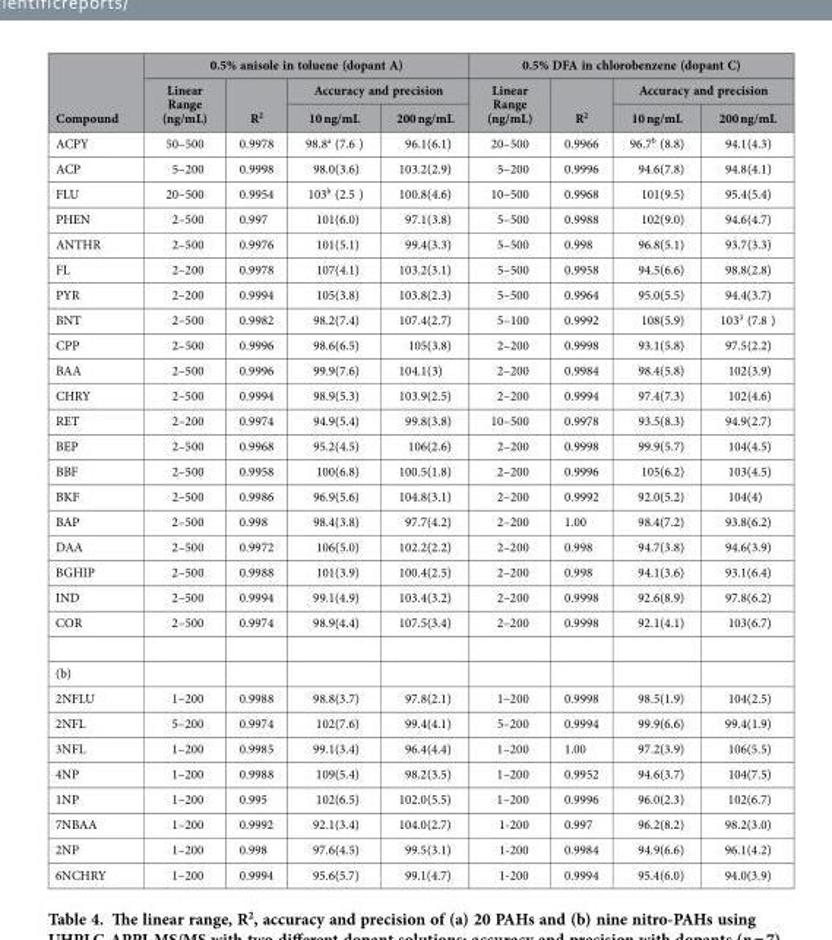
<table><thead><tr><td rowspan="3">Compound</td><td colspan="4">0.5% anisole in toluene (dopant A)</td><td colspan="4">0.5% DFA in chlorobenzene (dopant C)</td></tr><tr><td rowspan="2">Linear Range (ng/mL)</td><td rowspan="2">R<sup>2</sup></td><td colspan="2">Accuracy and precision</td><td rowspan="2">Linear Range (ng/mL)</td><td rowspan="2">R<sup>2</sup></td><td colspan="2">Accuracy and precision</td></tr><tr><td>10 ng/mL</td><td>200 ng/mL</td><td>10 ng/mL</td><td>200 ng/mL</td></tr></thead><tbody><tr><td>ACPY</td><td>50–500</td><td>0.9978</td><td>98.8<sup>a</sup> (7.6 )</td><td>96.1(6.1)</td><td>20–500</td><td>0.9966</td><td>96.7<sup>b</sup> (8.8)</td><td>94.1(4.3)</td></tr><tr><td>ACP</td><td>5–200</td><td>0.9998</td><td>98.0(3.6)</td><td>103.2(2.9)</td><td>5–200</td><td>0.9996</td><td>94.6(7.8)</td><td>94.8(4.1)</td></tr><tr><td>FLU</td><td>20–500</td><td>0.9954</td><td>103<sup>b</sup> (2.5 )</td><td>100.8(4.6)</td><td>10–500</td><td>0.9968</td><td>101(9.5)</td><td>95.4(5.4)</td></tr><tr><td>PHEN</td><td>2–500</td><td>0.997</td><td>101(6.0)</td><td>97.1(3.8)</td><td>5–500</td><td>0.9988</td><td>102(9.0)</td><td>94.6(4.7)</td></tr><tr><td>ANTHR</td><td>2–500</td><td>0.9976</td><td>101(5.1)</td><td>99.4(3.3)</td><td>5–500</td><td>0.998</td><td>96.8(5.1)</td><td>93.7(3.3)</td></tr><tr><td>FL</td><td>2–200</td><td>0.9978</td><td>107(4.1)</td><td>103.2(3.1)</td><td>5–500</td><td>0.9958</td><td>94.5(6.6)</td><td>98.8(2.8)</td></tr><tr><td>PYR</td><td>2–200</td><td>0.9994</td><td>105(3.8)</td><td>103.8(2.3)</td><td>5–500</td><td>0.9964</td><td>95.0(5.5)</td><td>94.4(3.7)</td></tr><tr><td>BNT</td><td>2–500</td><td>0.9982</td><td>98.2(7.4)</td><td>107.4(2.7)</td><td>5–100</td><td>0.9992</td><td>108(5.9)</td><td>103<sup>3</sup> (7.8 )</td></tr><tr><td>CPP</td><td>2–500</td><td>0.9996</td><td>98.6(6.5)</td><td>105(3.8)</td><td>2–200</td><td>0.9998</td><td>93.1(5.8)</td><td>97.5(2.2)</td></tr><tr><td>BAA</td><td>2–500</td><td>0.9996</td><td>99.9(7.6)</td><td>104.1(3)</td><td>2–200</td><td>0.9984</td><td>98.4(5.8)</td><td>102(3.9)</td></tr><tr><td>CHRY</td><td>2–500</td><td>0.9994</td><td>98.9(5.3)</td><td>103.9(2.5)</td><td>2–200</td><td>0.9994</td><td>97.4(7.3)</td><td>102(4.6)</td></tr><tr><td>RET</td><td>2–200</td><td>0.9974</td><td>94.9(5.4)</td><td>99.8(3.8)</td><td>10–500</td><td>0.9978</td><td>93.5(8.3)</td><td>94.9(2.7)</td></tr><tr><td>BEP</td><td>2–500</td><td>0.9968</td><td>95.2(4.5)</td><td>106(2.6)</td><td>2–200</td><td>0.9998</td><td>99.9(5.7)</td><td>104(4.5)</td></tr><tr><td>BBF</td><td>2–500</td><td>0.9958</td><td>100(6.8)</td><td>100.5(1.8)</td><td>2–200</td><td>0.9996</td><td>105(6.2)</td><td>103(4.5)</td></tr><tr><td>BKF</td><td>2–500</td><td>0.9986</td><td>96.9(5.6)</td><td>104.8(3.1)</td><td>2–200</td><td>0.9992</td><td>92.0(5.2)</td><td>104(4)</td></tr><tr><td>BAP</td><td>2–500</td><td>0.998</td><td>98.4(3.8)</td><td>97.7(4.2)</td><td>2–200</td><td>1.00</td><td>98.4(7.2)</td><td>93.8(6.2)</td></tr><tr><td>DAA</td><td>2–500</td><td>0.9972</td><td>106(5.0)</td><td>102.2(2.2)</td><td>2–200</td><td>0.998</td><td>94.7(3.8)</td><td>94.6(3.9)</td></tr><tr><td>BGHIP</td><td>2–500</td><td>0.9988</td><td>101(3.9)</td><td>100.4(2.5)</td><td>2–200</td><td>0.998</td><td>94.1(3.6)</td><td>93.1(6.4)</td></tr><tr><td>IND</td><td>2–500</td><td>0.9994</td><td>99.1(4.9)</td><td>103.4(3.2)</td><td>2–200</td><td>0.9998</td><td>92.6(8.9)</td><td>97.8(6.2)</td></tr><tr><td>COR</td><td>2–500</td><td>0.9974</td><td>98.9(4.4)</td><td>107.5(3.4)</td><td>2–200</td><td>0.9998</td><td>92.1(4.1)</td><td>103(6.7)</td></tr><tr><td colspan="9">(b)</td></tr><tr><td>2NFLU</td><td>1–200</td><td>0.9988</td><td>98.8(3.7)</td><td>97.8(2.1)</td><td>1–200</td><td>0.9998</td><td>98.5(1.9)</td><td>104(2.5)</td></tr><tr><td>2NFL</td><td>5–200</td><td>0.9974</td><td>102(7.6)</td><td>99.4(4.1)</td><td>5–200</td><td>0.9994</td><td>99.9(6.6)</td><td>99.4(1.9)</td></tr><tr><td>3NFL</td><td>1–200</td><td>0.9985</td><td>99.1(3.4)</td><td>96.4(4.4)</td><td>1–200</td><td>1.00</td><td>97.2(3.9)</td><td>106(5.5)</td></tr><tr><td>4NP</td><td>1–200</td><td>0.9988</td><td>109(5.4)</td><td>98.2(3.5)</td><td>1–200</td><td>0.9952</td><td>94.6(3.7)</td><td>104(7.5)</td></tr><tr><td>1NP</td><td>1–200</td><td>0.995</td><td>102(6.5)</td><td>102.0(5.5)</td><td>1–200</td><td>0.9996</td><td>96.0(2.3)</td><td>102(6.7)</td></tr><tr><td>7NBAA</td><td>1–200</td><td>0.9992</td><td>92.1(3.4)</td><td>104.0(2.7)</td><td>1-200</td><td>0.997</td><td>96.2(8.2)</td><td>98.2(3.0)</td></tr><tr><td>2NP</td><td>1–200</td><td>0.998</td><td>97.6(4.5)</td><td>99.5(3.1)</td><td>1-200</td><td>0.9984</td><td>94.9(6.6)</td><td>96.1(4.2)</td></tr><tr><td>6NCHRY</td><td>1–200</td><td>0.9994</td><td>95.6(5.7)</td><td>99.1(4.7)</td><td>1-200</td><td>0.9994</td><td>95.4(6.0)</td><td>94.0(3.9)</td></tr></tbody></table>